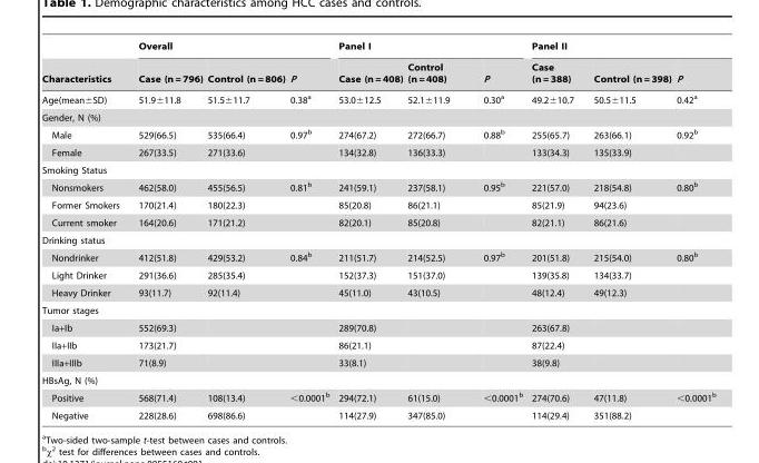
<table><thead><tr><td rowspan="2">Characteristics</td><td colspan="3">Overall</td><td colspan="3">Panel I</td><td colspan="3">Panel II</td></tr><tr><td>Case (n = 796)</td><td>Control (n = 806)</td><td>P</td><td>Case (n = 408)</td><td>Control (n = 408)</td><td>P</td><td>Case (n = 388)</td><td>Control (n = 398)</td><td>P</td></tr></thead><tbody><tr><td>Age(mean±SD)</td><td>51.9±11.8</td><td>51.5±11.7</td><td>0.38<sup>a</sup></td><td>53.0±12.5</td><td>52.1±11.9</td><td>0.30<sup>a</sup></td><td>49.2±10.7</td><td>50.5±11.5</td><td>0.42<sup>a</sup></td></tr><tr><td colspan="10">Gender, N (%)</td></tr><tr><td>Male</td><td>529(66.5)</td><td>535(66.4)</td><td>0.97<sup>b</sup></td><td>274(67.2)</td><td>272(66.7)</td><td>0.88<sup>b</sup></td><td>255(65.7)</td><td>263(66.1)</td><td>0.92<sup>b</sup></td></tr><tr><td>Female</td><td>267(33.5)</td><td>271(33.6)</td><td></td><td>134(32.8)</td><td>136(33.3)</td><td></td><td>133(34.3)</td><td>135(33.9)</td><td></td></tr><tr><td colspan="10">Smoking Status</td></tr><tr><td>Nonsmokers</td><td>462(58.0)</td><td>455(56.5)</td><td>0.81<sup>b</sup></td><td>241(59.1)</td><td>237(58.1)</td><td>0.95<sup>b</sup></td><td>221(57.0)</td><td>218(54.8)</td><td>0.80<sup>b</sup></td></tr><tr><td>Former Smokers</td><td>170(21.4)</td><td>180(22.3)</td><td></td><td>85(20.8)</td><td>86(21.1)</td><td></td><td>85(21.9)</td><td>94(23.6)</td><td></td></tr><tr><td>Current smoker</td><td>164(20.6)</td><td>171(21.2)</td><td></td><td>82(20.1)</td><td>85(20.8)</td><td></td><td>82(21.1)</td><td>86(21.6)</td><td></td></tr><tr><td colspan="10">Drinking status</td></tr><tr><td>Nondrinker</td><td>412(51.8)</td><td>429(53.2)</td><td>0.84<sup>b</sup></td><td>211(51.7)</td><td>214(52.5)</td><td>0.97<sup>b</sup></td><td>201(51.8)</td><td>215(54.0)</td><td>0.80<sup>b</sup></td></tr><tr><td>Light Drinker</td><td>291(36.6)</td><td>285(35.4)</td><td></td><td>152(37.3)</td><td>151(37.0)</td><td></td><td>139(35.8)</td><td>134(33.7)</td><td></td></tr><tr><td>Heavy Drinker</td><td>93(11.7)</td><td>92(11.4)</td><td></td><td>45(11.0)</td><td>43(10.5)</td><td></td><td>48(12.4)</td><td>49(12.3)</td><td></td></tr><tr><td colspan="10">Tumor stages</td></tr><tr><td>Ia+Ib</td><td>552(69.3)</td><td></td><td></td><td>289(70.8)</td><td></td><td></td><td>263(67.8)</td><td></td><td></td></tr><tr><td>IIa+IIb</td><td>173(21.7)</td><td></td><td></td><td>86(21.1)</td><td></td><td></td><td>87(22.4)</td><td></td><td></td></tr><tr><td>IIIa+IIIb</td><td>71(8.9)</td><td></td><td></td><td>33(8.1)</td><td></td><td></td><td>38(9.8)</td><td></td><td></td></tr><tr><td colspan="10">HBsAg, N (%)</td></tr><tr><td>Positive</td><td>568(71.4)</td><td>108(13.4)</td><td>&lt;0.0001<sup>b</sup></td><td>294(72.1)</td><td>61(15.0)</td><td>&lt;0.0001<sup>b</sup></td><td>274(70.6)</td><td>47(11.8)</td><td>&lt;0.0001<sup>b</sup></td></tr><tr><td>Negative</td><td>228(28.6)</td><td>698(86.6)</td><td></td><td>114(27.9)</td><td>347(85.0)</td><td></td><td>114(29.4)</td><td>351(88.2)</td><td></td></tr></tbody></table>